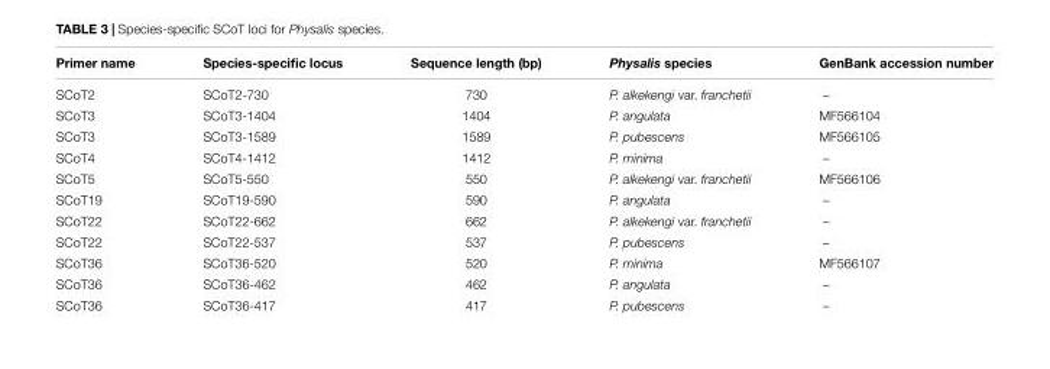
<table><thead><tr><td>Primer name</td><td>Species-specific locus</td><td>Sequence length (bp)</td><td>Physalis species</td><td>GenBank accession number</td></tr></thead><tbody><tr><td>SCoT2</td><td>SCoT2-730</td><td>730</td><td>P. alkekengi var. franchetii</td><td>–</td></tr><tr><td>SCoT3</td><td>SCoT3-1404</td><td>1404</td><td>P. angulata</td><td>MF566104</td></tr><tr><td>SCoT3</td><td>SCoT3-1589</td><td>1589</td><td>P. pubescens</td><td>MF566105</td></tr><tr><td>SCoT4</td><td>SCoT4-1412</td><td>1412</td><td>P. minima</td><td>–</td></tr><tr><td>SCoT5</td><td>SCoT5-550</td><td>550</td><td>P. alkekengi var. franchetii</td><td>MF566106</td></tr><tr><td>SCoT19</td><td>SCoT19-590</td><td>590</td><td>P. angulata</td><td>–</td></tr><tr><td>SCoT22</td><td>SCoT22-662</td><td>662</td><td>P. alkekengi var. franchetii</td><td>–</td></tr><tr><td>SCoT22</td><td>SCoT22-537</td><td>537</td><td>P. pubescens</td><td>–</td></tr><tr><td>SCoT36</td><td>SCoT36-520</td><td>520</td><td>P. minima</td><td>MF566107</td></tr><tr><td>SCoT36</td><td>SCoT36-462</td><td>462</td><td>P. angulata</td><td>–</td></tr><tr><td>SCoT36</td><td>SCoT36-417</td><td>417</td><td>P. pubescens</td><td>–</td></tr></tbody></table>